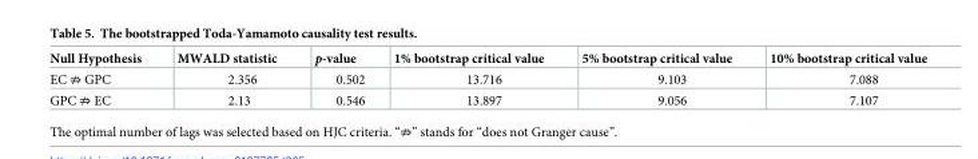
<table><thead><tr><td>Null Hypothesis</td><td>MWALD statistic</td><td>p-value</td><td>1% bootstrap critical value</td><td>5% bootstrap critical value</td><td>10% bootstrap critical value</td></tr></thead><tbody><tr><td>EC ⇏ GPC</td><td>2.356</td><td>0.502</td><td>13.716</td><td>9.103</td><td>7.088</td></tr><tr><td>GPC ⇏ EC</td><td>2.13</td><td>0.546</td><td>13.897</td><td>9.056</td><td>7.107</td></tr></tbody></table>